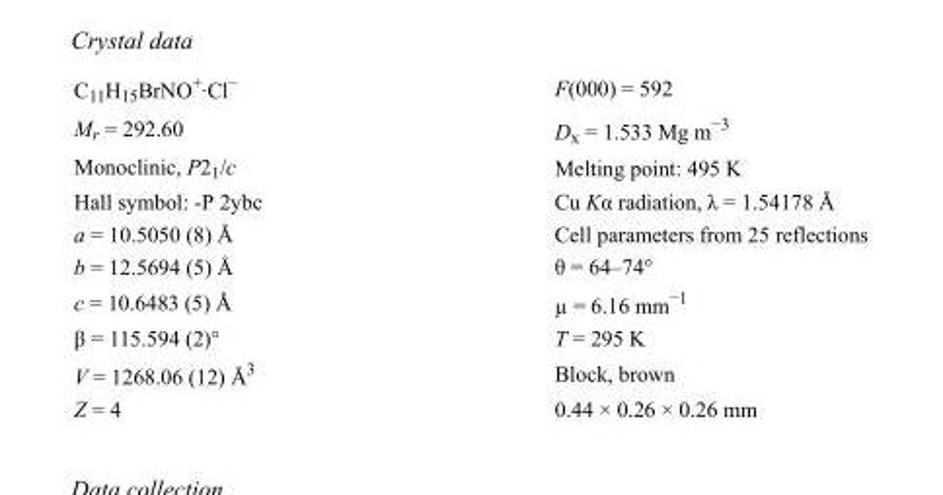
<table><tbody><tr><td>C<sub>11</sub>H<sub>15</sub>BrNO<sup>+</sup>·Cl<sup>−</sup></td><td>F(000) = 592</td></tr><tr><td>M<sub>r</sub> = 292.60</td><td>D<sub>x</sub> = 1.533 Mg m<sup>−3</sup></td></tr><tr><td>Monoclinic, P2<sub>1</sub>/c</td><td>Melting point: 495 K</td></tr><tr><td>Hall symbol: -P 2ybc</td><td>Cu Kα radiation, λ = 1.54178 Å</td></tr><tr><td>a = 10.5050 (8) Å</td><td>Cell parameters from 25 reflections</td></tr><tr><td>b = 12.5694 (5) Å</td><td>θ = 64–74°</td></tr><tr><td>c = 10.6483 (5) Å</td><td>µ = 6.16 mm<sup>−1</sup></td></tr><tr><td>β = 115.594 (2)°</td><td>T = 295 K</td></tr><tr><td>V = 1268.06 (12) Å<sup>3</sup></td><td>Block, brown</td></tr><tr><td>Z = 4</td><td>0.44 × 0.26 × 0.26 mm</td></tr></tbody></table>